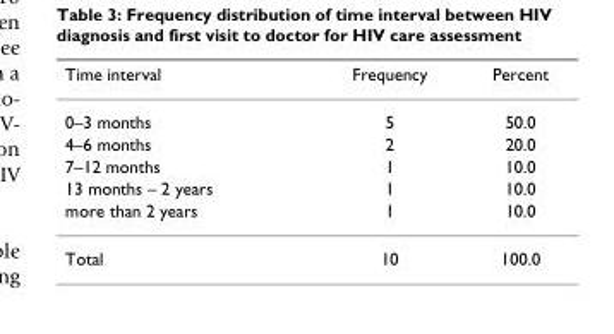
<table><thead><tr><td>Time interval</td><td>Frequency</td><td>Percent</td></tr></thead><tbody><tr><td>0–3 months</td><td>5</td><td>50.0</td></tr><tr><td>4–6 months</td><td>2</td><td>20.0</td></tr><tr><td>7–12 months</td><td>1</td><td>10.0</td></tr><tr><td>13 months – 2 years</td><td>1</td><td>10.0</td></tr><tr><td>more than 2 years</td><td>1</td><td>10.0</td></tr><tr><td>Total</td><td>10</td><td>100.0</td></tr></tbody></table>